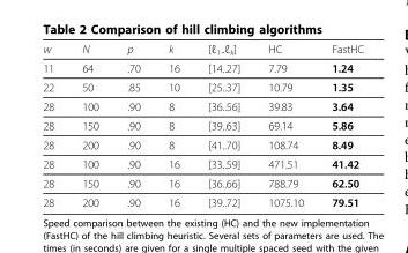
<table><thead><tr><td>w</td><td>N</td><td>p</td><td>k</td><td>[ℓ<sub>1</sub>..ℓ<sub>k</sub>]</td><td>HC</td><td>FastHC</td></tr></thead><tbody><tr><td>11</td><td>64</td><td>.70</td><td>16</td><td>[14..27]</td><td>7.79</td><td>1.24</td></tr><tr><td>22</td><td>50</td><td>.85</td><td>10</td><td>[25..37]</td><td>10.79</td><td>1.35</td></tr><tr><td>28</td><td>100</td><td>.90</td><td>8</td><td>[36..56]</td><td>39.83</td><td>3.64</td></tr><tr><td>28</td><td>150</td><td>.90</td><td>8</td><td>[39..63]</td><td>69.14</td><td>5.86</td></tr><tr><td>28</td><td>200</td><td>.90</td><td>8</td><td>[41..70]</td><td>108.74</td><td>8.49</td></tr><tr><td>28</td><td>100</td><td>.90</td><td>16</td><td>[33..59]</td><td>471.51</td><td>41.42</td></tr><tr><td>28</td><td>150</td><td>.90</td><td>16</td><td>[36..66]</td><td>788.79</td><td>62.50</td></tr><tr><td>28</td><td>200</td><td>.90</td><td>16</td><td>[39..72]</td><td>1075.10</td><td>79.51</td></tr></tbody></table>